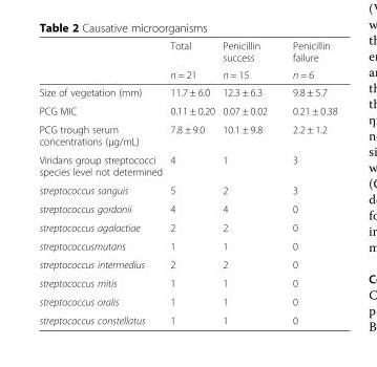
<table><thead><tr><td rowspan="2"></td><td rowspan="2">Total n = 21</td><td rowspan="2">Penicillin success n = 15</td><td rowspan="2">Penicillin failure n = 6</td></tr><tr></tr></thead><tbody><tr><td>Size of vegetation (mm)</td><td>11.7 ± 6.0</td><td>12.3 ± 6.3</td><td>9.8 ± 5.7</td></tr><tr><td>PCG MIC</td><td>0.11 ± 0.20</td><td>0.07 ± 0.02</td><td>0.21 ± 0.38</td></tr><tr><td>PCG trough serum concentrations (μg/mL)</td><td>7.8 ± 9.0</td><td>10.1 ± 9.8</td><td>2.2 ± 1.2</td></tr><tr><td>Viridans group streptococci species level not determined</td><td>4</td><td>1</td><td>3</td></tr><tr><td>streptococcus sanguis</td><td>5</td><td>2</td><td>3</td></tr><tr><td>streptococcus gordonii</td><td>4</td><td>4</td><td>0</td></tr><tr><td>streptococcus agalactiae</td><td>2</td><td>2</td><td>0</td></tr><tr><td>streptococcusmutans</td><td>1</td><td>1</td><td>0</td></tr><tr><td>streptococcus intermedius</td><td>2</td><td>2</td><td>0</td></tr><tr><td>streptococcus mitis</td><td>1</td><td>1</td><td>0</td></tr><tr><td>streptococcus oralis</td><td>1</td><td>1</td><td>0</td></tr><tr><td>streptococcus constellatus</td><td>1</td><td>1</td><td>0</td></tr></tbody></table>